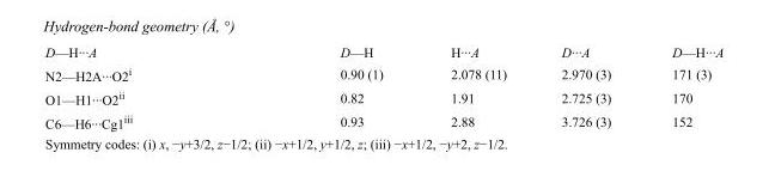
<table><tbody><tr><td>D—H···A</td><td>D—H</td><td>H···A</td><td>D···A</td><td>D—H···A</td></tr><tr><td>N2—H2A···O2<sup>i</sup></td><td>0.90 (1)</td><td>2.078 (11)</td><td>2.970 (3)</td><td>171 (3)</td></tr><tr><td>O1—H1···O2<sup>ii</sup></td><td>0.82</td><td>1.91</td><td>2.725 (3)</td><td>170</td></tr><tr><td>C6—H6···Cg1<sup>iii</sup></td><td>0.93</td><td>2.88</td><td>3.726 (3)</td><td>152</td></tr></tbody></table>